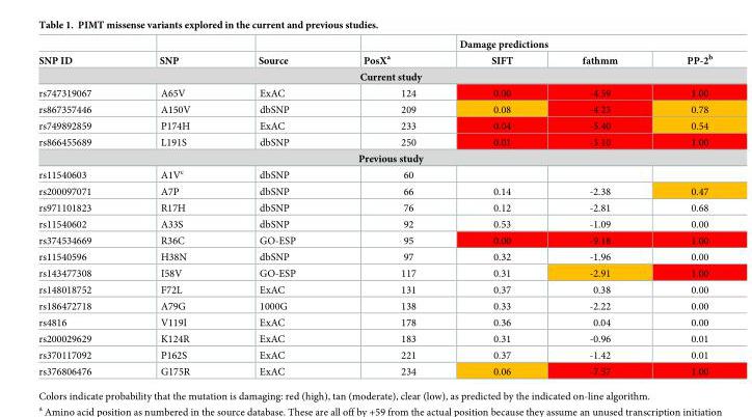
<table><thead><tr><td rowspan="2">SNP ID</td><td rowspan="2">SNP</td><td rowspan="2">Source</td><td rowspan="2">PosX<sup>a</sup></td><td colspan="3">Damage predictions</td></tr><tr><td>SIFT</td><td>fathmm</td><td>PP-2<sup>b</sup></td></tr></thead><tbody><tr><td colspan="7">Current study</td></tr><tr><td>rs747319067</td><td>A65V</td><td>ExAC</td><td>124</td><td>0.00</td><td>-4.59</td><td>1.00</td></tr><tr><td>rs867357446</td><td>A150V</td><td>dbSNP</td><td>209</td><td>0.08</td><td>-4.23</td><td>0.78</td></tr><tr><td>rs749892859</td><td>P174H</td><td>ExAC</td><td>233</td><td>0.04</td><td>-5.40</td><td>0.54</td></tr><tr><td>rs866455689</td><td>L191S</td><td>dbSNP</td><td>250</td><td>0.01</td><td>-3.10</td><td>1.00</td></tr><tr><td colspan="7">Previous study</td></tr><tr><td>rs11540603</td><td>A1V<sup>c</sup></td><td>dbSNP</td><td>60</td><td></td><td></td><td></td></tr><tr><td>rs200097071</td><td>A7P</td><td>dbSNP</td><td>66</td><td>0.14</td><td>-2.38</td><td>0.47</td></tr><tr><td>rs971101823</td><td>R17H</td><td>dbSNP</td><td>76</td><td>0.12</td><td>-2.81</td><td>0.68</td></tr><tr><td>rs11540602</td><td>A33S</td><td>dbSNP</td><td>92</td><td>0.53</td><td>-1.09</td><td>0.00</td></tr><tr><td>rs374534669</td><td>R36C</td><td>GO-ESP</td><td>95</td><td>0.00</td><td>-9.18</td><td>1.00</td></tr><tr><td>rs11540596</td><td>H38N</td><td>dbSNP</td><td>97</td><td>0.32</td><td>-1.96</td><td>0.00</td></tr><tr><td>rs143477308</td><td>I58V</td><td>GO-ESP</td><td>117</td><td>0.31</td><td>-2.91</td><td>1.00</td></tr><tr><td>rs148018752</td><td>F72L</td><td>ExAC</td><td>131</td><td>0.37</td><td>0.38</td><td>0.00</td></tr><tr><td>rs186472718</td><td>A79G</td><td>1000G</td><td>138</td><td>0.33</td><td>-2.22</td><td>0.00</td></tr><tr><td>rs4816</td><td>V119I</td><td>ExAC</td><td>178</td><td>0.36</td><td>0.04</td><td>0.00</td></tr><tr><td>rs200029629</td><td>K124R</td><td>ExAC</td><td>183</td><td>0.31</td><td>-0.96</td><td>0.01</td></tr><tr><td>rs370117092</td><td>P162S</td><td>ExAC</td><td>221</td><td>0.37</td><td>-1.42</td><td>0.01</td></tr><tr><td>rs376806476</td><td>G175R</td><td>ExAC</td><td>234</td><td>0.06</td><td>-7.57</td><td>1.00</td></tr></tbody></table>